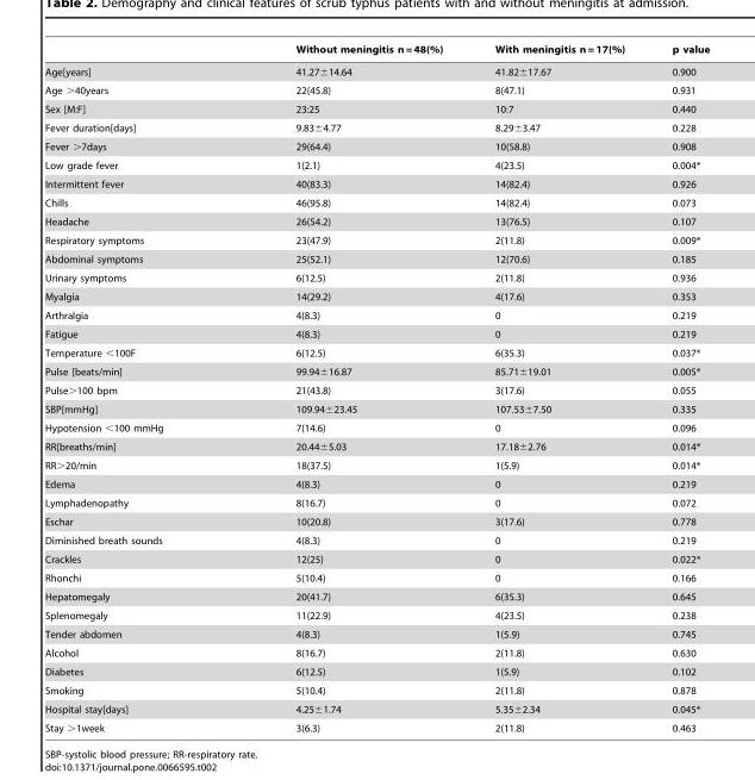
<table><thead><tr><td></td><td>Without meningitis n = 48(%)</td><td>With meningitis n = 17(%)</td><td>p value</td></tr></thead><tbody><tr><td>Age[years]</td><td>41.27±14.64</td><td>41.82±17.67</td><td>0.900</td></tr><tr><td>Age &gt;40years</td><td>22(45.8)</td><td>8(47.1)</td><td>0.931</td></tr><tr><td>Sex [M:F]</td><td>23:25</td><td>10:7</td><td>0.440</td></tr><tr><td>Fever duration[days]</td><td>9.83±4.77</td><td>8.29±3.47</td><td>0.228</td></tr><tr><td>Fever &gt;7days</td><td>29(64.4)</td><td>10(58.8)</td><td>0.908</td></tr><tr><td>Low grade fever</td><td>1(2.1)</td><td>4(23.5)</td><td>0.004*</td></tr><tr><td>Intermittent fever</td><td>40(83.3)</td><td>14(82.4)</td><td>0.926</td></tr><tr><td>Chills</td><td>46(95.8)</td><td>14(82.4)</td><td>0.073</td></tr><tr><td>Headache</td><td>26(54.2)</td><td>13(76.5)</td><td>0.107</td></tr><tr><td>Respiratory symptoms</td><td>23(47.9)</td><td>2(11.8)</td><td>0.009*</td></tr><tr><td>Abdominal symptoms</td><td>25(52.1)</td><td>12(70.6)</td><td>0.185</td></tr><tr><td>Urinary symptoms</td><td>6(12.5)</td><td>2(11.8)</td><td>0.936</td></tr><tr><td>Myalgia</td><td>14(29.2)</td><td>4(17.6)</td><td>0.353</td></tr><tr><td>Arthralgia</td><td>4(8.3)</td><td>0</td><td>0.219</td></tr><tr><td>Fatigue</td><td>4(8.3)</td><td>0</td><td>0.219</td></tr><tr><td>Temperature &lt;100F</td><td>6(12.5)</td><td>6(35.3)</td><td>0.037*</td></tr><tr><td>Pulse [beats/min]</td><td>99.94±16.87</td><td>85.71±19.01</td><td>0.005*</td></tr><tr><td>Pulse&gt;100 bpm</td><td>21(43.8)</td><td>3(17.6)</td><td>0.055</td></tr><tr><td>SBP[mmHg]</td><td>109.94±23.45</td><td>107.53±7.50</td><td>0.335</td></tr><tr><td>Hypotension &lt;100 mmHg</td><td>7(14.6)</td><td>0</td><td>0.096</td></tr><tr><td>RR[breaths/min]</td><td>20.44±5.03</td><td>17.18±2.76</td><td>0.014*</td></tr><tr><td>RR&gt;20/min</td><td>18(37.5)</td><td>1(5.9)</td><td>0.014*</td></tr><tr><td>Edema</td><td>4(8.3)</td><td>0</td><td>0.219</td></tr><tr><td>Lymphadenopathy</td><td>8(16.7)</td><td>0</td><td>0.072</td></tr><tr><td>Eschar</td><td>10(20.8)</td><td>3(17.6)</td><td>0.778</td></tr><tr><td>Diminished breath sounds</td><td>4(8.3)</td><td>0</td><td>0.219</td></tr><tr><td>Crackles</td><td>12(25)</td><td>0</td><td>0.022*</td></tr><tr><td>Rhonchi</td><td>5(10.4)</td><td>0</td><td>0.166</td></tr><tr><td>Hepatomegaly</td><td>20(41.7)</td><td>6(35.3)</td><td>0.645</td></tr><tr><td>Splenomegaly</td><td>11(22.9)</td><td>4(23.5)</td><td>0.238</td></tr><tr><td>Tender abdomen</td><td>4(8.3)</td><td>1(5.9)</td><td>0.745</td></tr><tr><td>Alcohol</td><td>8(16.7)</td><td>2(11.8)</td><td>0.630</td></tr><tr><td>Diabetes</td><td>6(12.5)</td><td>1(5.9)</td><td>0.102</td></tr><tr><td>Smoking</td><td>5(10.4)</td><td>2(11.8)</td><td>0.878</td></tr><tr><td>Hospital stay[days]</td><td>4.25±1.74</td><td>5.35±2.34</td><td>0.045*</td></tr><tr><td>Stay &gt;1week</td><td>3(6.3)</td><td>2(11.8)</td><td>0.463</td></tr></tbody></table>